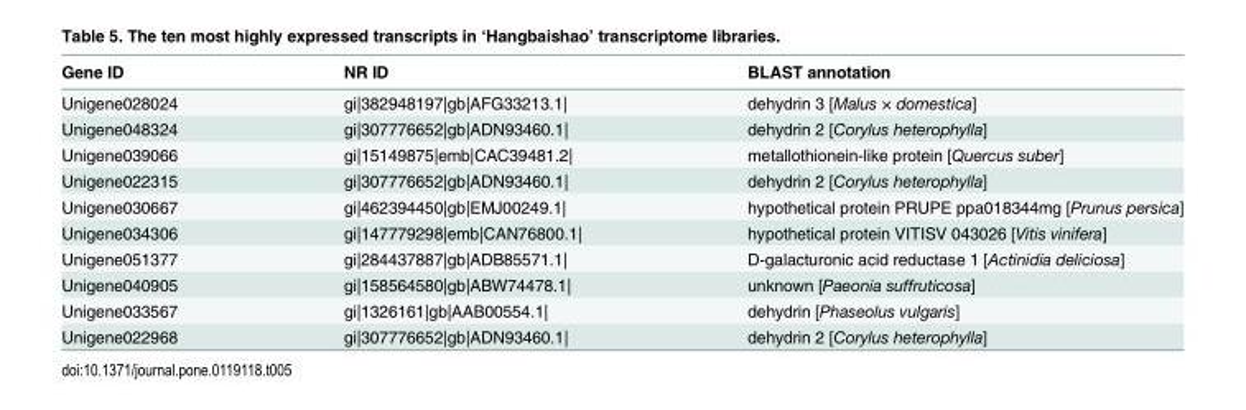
<table><thead><tr><td>Gene ID</td><td>NR ID</td><td>BLAST annotation</td></tr></thead><tbody><tr><td>Unigene028024</td><td>gi|382948197|gb|AFG33213.1|</td><td>dehydrin 3 [Malus × domestica]</td></tr><tr><td>Unigene048324</td><td>gi|307776652|gb|ADN93460.1|</td><td>dehydrin 2 [Corylus heterophylla]</td></tr><tr><td>Unigene039066</td><td>gi|15149875|emb|CAC39481.2|</td><td>metallothionein-like protein [Quercus suber]</td></tr><tr><td>Unigene022315</td><td>gi|307776652|gb|ADN93460.1|</td><td>dehydrin 2 [Corylus heterophylla]</td></tr><tr><td>Unigene030667</td><td>gi|462394450|gb|EMJ00249.1|</td><td>hypothetical protein PRUPE ppa018344mg [Prunus persica]</td></tr><tr><td>Unigene034306</td><td>gi|147779298|emb|CAN76800.1|</td><td>hypothetical protein VITISV 043026 [Vitis vinifera]</td></tr><tr><td>Unigene051377</td><td>gi|284437887|gb|ADB85571.1|</td><td>D-galacturonic acid reductase 1 [Actinidia deliciosa]</td></tr><tr><td>Unigene040905</td><td>gi|158564580|gb|ABW74478.1|</td><td>unknown [Paeonia suffruticosa]</td></tr><tr><td>Unigene033567</td><td>gi|1326161|gb|AAB00554.1|</td><td>dehydrin [Phaseolus vulgaris]</td></tr><tr><td>Unigene022968</td><td>gi|307776652|gb|ADN93460.1|</td><td>dehydrin 2 [Corylus heterophylla]</td></tr></tbody></table>